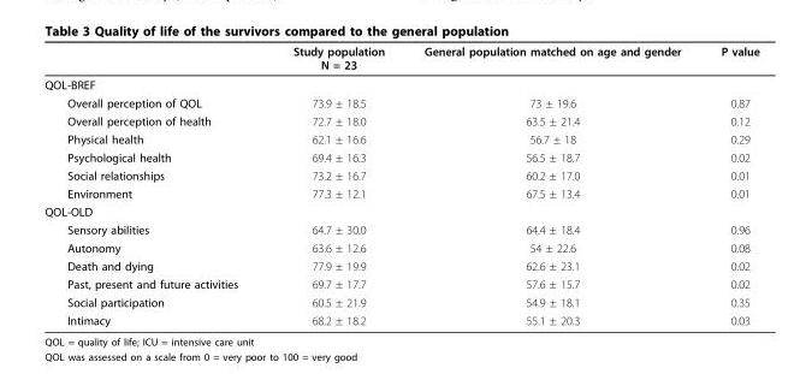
<table><thead><tr><td></td><td>Study population N = 23</td><td>General population matched on age and gender</td><td>P value</td></tr></thead><tbody><tr><td colspan="4">QOL-BREF</td></tr><tr><td>Overall perception of QOL</td><td>73.9 ± 18.5</td><td>73 ± 19.6</td><td>0.87</td></tr><tr><td>Overall perception of health</td><td>72.7 ± 18.0</td><td>63.5 ± 21.4</td><td>0.12</td></tr><tr><td>Physical health</td><td>62.1 ± 16.6</td><td>56.7 ± 18</td><td>0.29</td></tr><tr><td>Psychological health</td><td>69.4 ± 16.3</td><td>56.5 ± 18.7</td><td>0.02</td></tr><tr><td>Social relationships</td><td>73.2 ± 16.7</td><td>60.2 ± 17.0</td><td>0.01</td></tr><tr><td>Environment</td><td>77.3 ± 12.1</td><td>67.5 ± 13.4</td><td>0.01</td></tr><tr><td colspan="4">QOL-OLD</td></tr><tr><td>Sensory abilities</td><td>64.7 ± 30.0</td><td>64.4 ± 18.4</td><td>0.96</td></tr><tr><td>Autonomy</td><td>63.6 ± 12.6</td><td>54 ± 22.6</td><td>0.08</td></tr><tr><td>Death and dying</td><td>77.9 ± 19.9</td><td>62.6 ± 23.1</td><td>0.02</td></tr><tr><td>Past, present and future activities</td><td>69.7 ± 17.7</td><td>57.6 ± 15.7</td><td>0.02</td></tr><tr><td>Social participation</td><td>60.5 ± 21.9</td><td>54.9 ± 18.1</td><td>0.35</td></tr><tr><td>Intimacy</td><td>68.2 ± 18.2</td><td>55.1 ± 20.3</td><td>0.03</td></tr></tbody></table>